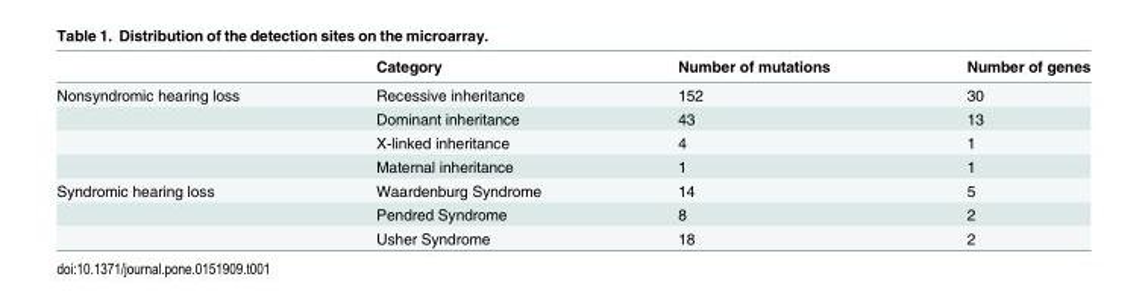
<table><thead><tr><td></td><td>Category</td><td>Number of mutations</td><td>Number of genes</td></tr></thead><tbody><tr><td rowspan="4">Nonsyndromic hearing loss</td><td>Recessive inheritance</td><td>152</td><td>30</td></tr><tr><td>Dominant inheritance</td><td>43</td><td>13</td></tr><tr><td>X-linked inheritance</td><td>4</td><td>1</td></tr><tr><td>Maternal inheritance</td><td>1</td><td>1</td></tr><tr><td rowspan="3">Syndromic hearing loss</td><td>Waardenburg Syndrome</td><td>14</td><td>5</td></tr><tr><td>Pendred Syndrome</td><td>8</td><td>2</td></tr><tr><td>Usher Syndrome</td><td>18</td><td>2</td></tr></tbody></table>